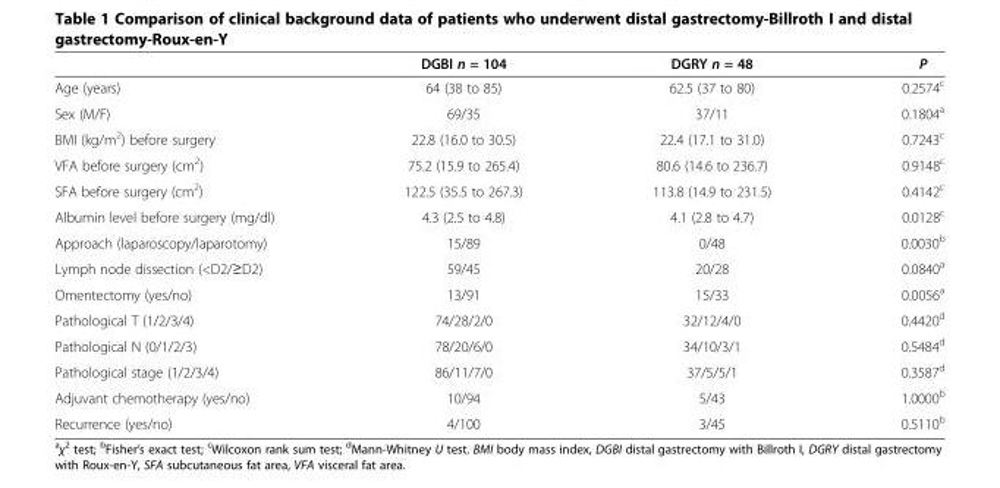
<table><thead><tr><td></td><td>DGBI n = 104</td><td>DGRY n = 48</td><td>P</td></tr></thead><tbody><tr><td>Age (years)</td><td>64 (38 to 85)</td><td>62.5 (37 to 80)</td><td>0.2574<sup>c</sup></td></tr><tr><td>Sex (M/F)</td><td>69/35</td><td>37/11</td><td>0.1804<sup>a</sup></td></tr><tr><td>BMI (kg/m<sup>2</sup>) before surgery</td><td>22.8 (16.0 to 30.5)</td><td>22.4 (17.1 to 31.0)</td><td>0.7243<sup>c</sup></td></tr><tr><td>VFA before surgery (cm<sup>2</sup>)</td><td>75.2 (15.9 to 265.4)</td><td>80.6 (14.6 to 236.7)</td><td>0.9148<sup>c</sup></td></tr><tr><td>SFA before surgery (cm<sup>2</sup>)</td><td>122.5 (35.5 to 267.3)</td><td>113.8 (14.9 to 231.5)</td><td>0.4142<sup>c</sup></td></tr><tr><td>Albumin level before surgery (mg/dl)</td><td>4.3 (2.5 to 4.8)</td><td>4.1 (2.8 to 4.7)</td><td>0.0128<sup>c</sup></td></tr><tr><td>Approach (laparoscopy/laparotomy)</td><td>15/89</td><td>0/48</td><td>0.0030<sup>b</sup></td></tr><tr><td>Lymph node dissection (&lt;D2/≥D2)</td><td>59/45</td><td>20/28</td><td>0.0840<sup>a</sup></td></tr><tr><td>Omentectomy (yes/no)</td><td>13/91</td><td>15/33</td><td>0.0056<sup>a</sup></td></tr><tr><td>Pathological T (1/2/3/4)</td><td>74/28/2/0</td><td>32/12/4/0</td><td>0.4420<sup>d</sup></td></tr><tr><td>Pathological N (0/1/2/3)</td><td>78/20/6/0</td><td>34/10/3/1</td><td>0.5484<sup>d</sup></td></tr><tr><td>Pathological stage (1/2/3/4)</td><td>86/11/7/0</td><td>37/5/5/1</td><td>0.3587<sup>d</sup></td></tr><tr><td>Adjuvant chemotherapy (yes/no)</td><td>10/94</td><td>5/43</td><td>1.0000<sup>b</sup></td></tr><tr><td>Recurrence (yes/no)</td><td>4/100</td><td>3/45</td><td>0.5110<sup>b</sup></td></tr></tbody></table>